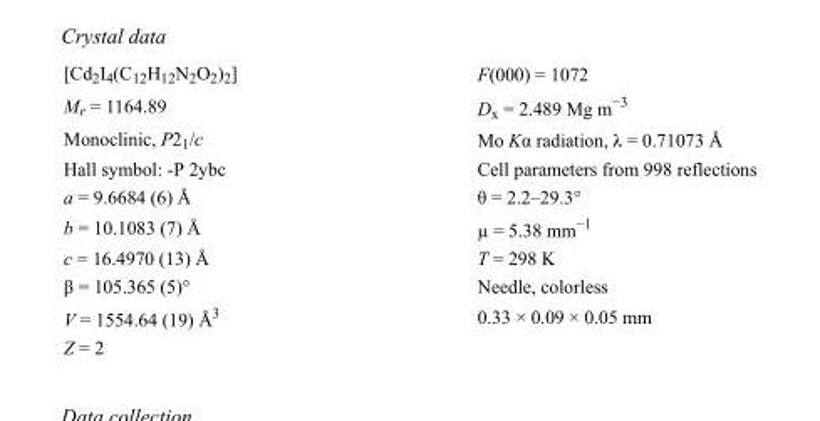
<table><tbody><tr><td>[Cd<sub>2</sub>I<sub>4</sub>(C<sub>12</sub>H<sub>12</sub>N<sub>2</sub>O<sub>2</sub>)<sub>2</sub>]</td><td>F(000) = 1072</td></tr><tr><td>M<sub>r</sub> = 1164.89</td><td>D<sub>x</sub> = 2.489 Mg m<sup>−3</sup></td></tr><tr><td>Monoclinic, P2<sub>1</sub>/c</td><td>Mo Kα radiation, λ = 0.71073 Å</td></tr><tr><td>Hall symbol: -P 2ybc</td><td>Cell parameters from 998 reflections</td></tr><tr><td>a = 9.6684 (6) Å</td><td>θ = 2.2–29.3°</td></tr><tr><td>b = 10.1083 (7) Å</td><td>µ = 5.38 mm<sup>−1</sup></td></tr><tr><td>c = 16.4970 (13) Å</td><td>T = 298 K</td></tr><tr><td>β = 105.365 (5)°</td><td>Needle, colorless</td></tr><tr><td>V = 1554.64 (19) Å<sup>3</sup></td><td>0.33 × 0.09 × 0.05 mm</td></tr><tr><td>Z = 2</td><td></td></tr></tbody></table>